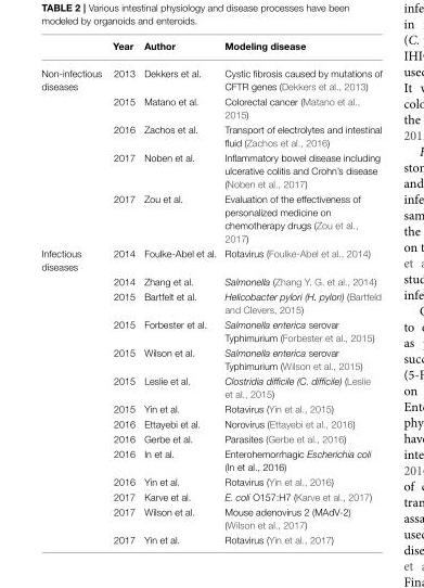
<table><thead><tr><td></td><td>Year</td><td>Author</td><td>Modeling disease</td></tr></thead><tbody><tr><td rowspan="5">Non-infectious diseases</td><td>2013</td><td>Dekkers et al.</td><td>Cystic fibrosis caused by mutations of CFTR genes (Dekkers et al., 2013)</td></tr><tr><td>2015</td><td>Matano et al.</td><td>Colorectal cancer (Matano et al., 2015)</td></tr><tr><td>2016</td><td>Zachos et al.</td><td>Transport of electrolytes and intestinal fluid (Zachos et al., 2016)</td></tr><tr><td>2017</td><td>Noben et al.</td><td>Inflammatory bowel disease including ulcerative colitis and Crohn’s disease (Noben et al., 2017)</td></tr><tr><td>2017</td><td>Zou et al.</td><td>Evaluation of the effectiveness of personalized medicine on chemotherapy drugs (Zou et al., 2017)</td></tr><tr><td rowspan="14">Infectious diseases</td><td>2014</td><td>Foulke-Abel et al.</td><td>Rotavirus (Foulke-Abel et al., 2014)</td></tr><tr><td>2014</td><td>Zhang et al.</td><td>Salmonella (Zhang Y. G. et al., 2014)</td></tr><tr><td>2015</td><td>Bartfelt et al.</td><td>Helicobacter pylori (H. pylori) (Bartfeld and Clevers, 2015)</td></tr><tr><td>2015</td><td>Forbester et al.</td><td>Salmonella enterica serovar Typhimurium (Forbester et al., 2015)</td></tr><tr><td>2015</td><td>Wilson et al.</td><td>Salmonella enterica serovar Typhimurium (Wilson et al., 2015)</td></tr><tr><td>2015</td><td>Leslie et al.</td><td>Clostridia difficile (C. difficile) (Leslie et al., 2015)</td></tr><tr><td>2015</td><td>Yin et al.</td><td>Rotavirus (Yin et al., 2015)</td></tr><tr><td>2016</td><td>Ettayebi et al.</td><td>Norovirus (Ettayebi et al., 2016)</td></tr><tr><td>2016</td><td>Gerbe et al.</td><td>Parasites (Gerbe et al., 2016)</td></tr><tr><td>2016</td><td>In et al.</td><td>Enterohemorrhagic Escherichia coli (In et al., 2016)</td></tr><tr><td>2016</td><td>Yin et al.</td><td>Rotavirus (Yin et al., 2016)</td></tr><tr><td>2017</td><td>Karve et al.</td><td>E. coli O157:H7 (Karve et al., 2017)</td></tr><tr><td>2017</td><td>Wilson et al.</td><td>Mouse adenovirus 2 (MAdV-2) (Wilson et al., 2017)</td></tr><tr><td>2017</td><td>Yin et al.</td><td>Rotavirus (Yin et al., 2017)</td></tr></tbody></table>